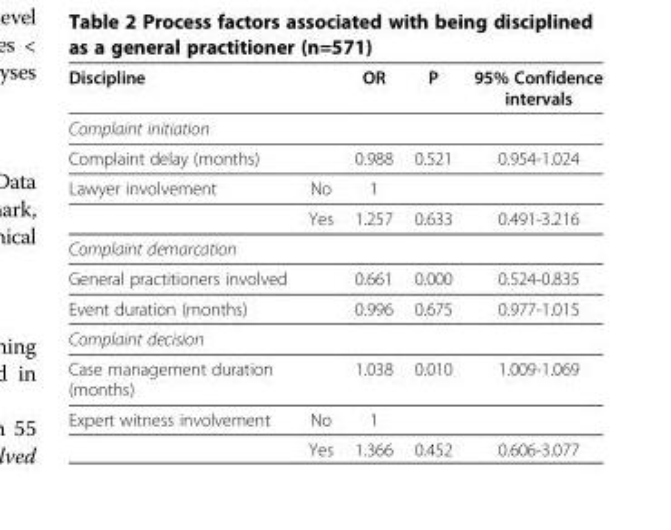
<table><thead><tr><td>Discipline</td><td></td><td>OR</td><td>P</td><td>95% Confidence intervals</td></tr></thead><tbody><tr><td colspan="5">Complaint initiation</td></tr><tr><td>Complaint delay (months)</td><td></td><td>0.988</td><td>0.521</td><td>0.954-1.024</td></tr><tr><td rowspan="2">Lawyer involvement</td><td>No</td><td>1</td><td></td><td></td></tr><tr><td>Yes</td><td>1.257</td><td>0.633</td><td>0.491-3.216</td></tr><tr><td colspan="5">Complaint demarcation</td></tr><tr><td>General practitioners involved</td><td></td><td>0.661</td><td>0.000</td><td>0.524-0.835</td></tr><tr><td>Event duration (months)</td><td></td><td>0.996</td><td>0.675</td><td>0.977-1.015</td></tr><tr><td colspan="5">Complaint decision</td></tr><tr><td>Case management duration (months)</td><td></td><td>1.038</td><td>0.010</td><td>1.009-1.069</td></tr><tr><td rowspan="2">Expert witness involvement</td><td>No</td><td>1</td><td></td><td></td></tr><tr><td>Yes</td><td>1.366</td><td>0.452</td><td>0.606-3.077</td></tr></tbody></table>